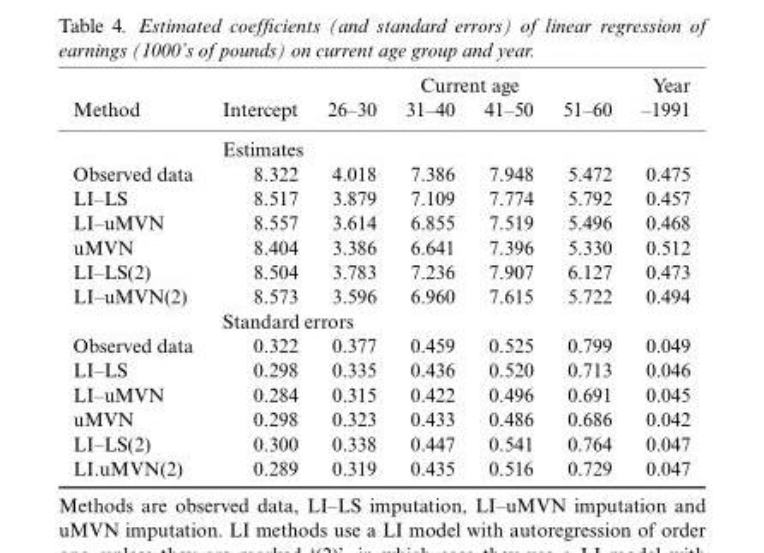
<table><thead><tr><td rowspan="2">Method</td><td rowspan="2">Intercept</td><td colspan="4">Current age</td><td rowspan="2">Year –1991</td></tr><tr><td>26–30</td><td>31–40</td><td>41–50</td><td>51–60</td></tr></thead><tbody><tr><td colspan="7">Estimates</td></tr><tr><td>Observed data</td><td>8.322</td><td>4.018</td><td>7.386</td><td>7.948</td><td>5.472</td><td>0.475</td></tr><tr><td>LI–LS</td><td>8.517</td><td>3.879</td><td>7.109</td><td>7.774</td><td>5.792</td><td>0.457</td></tr><tr><td>LI–uMVN</td><td>8.557</td><td>3.614</td><td>6.855</td><td>7.519</td><td>5.496</td><td>0.468</td></tr><tr><td>uMVN</td><td>8.404</td><td>3.386</td><td>6.641</td><td>7.396</td><td>5.330</td><td>0.512</td></tr><tr><td>LI–LS(2)</td><td>8.504</td><td>3.783</td><td>7.236</td><td>7.907</td><td>6.127</td><td>0.473</td></tr><tr><td>LI–uMVN(2)</td><td>8.573</td><td>3.596</td><td>6.960</td><td>7.615</td><td>5.722</td><td>0.494</td></tr><tr><td colspan="7">Standard errors</td></tr><tr><td>Observed data</td><td>0.322</td><td>0.377</td><td>0.459</td><td>0.525</td><td>0.799</td><td>0.049</td></tr><tr><td>LI–LS</td><td>0.298</td><td>0.335</td><td>0.436</td><td>0.520</td><td>0.713</td><td>0.046</td></tr><tr><td>LI–uMVN</td><td>0.284</td><td>0.315</td><td>0.422</td><td>0.496</td><td>0.691</td><td>0.045</td></tr><tr><td>uMVN</td><td>0.298</td><td>0.323</td><td>0.433</td><td>0.486</td><td>0.686</td><td>0.042</td></tr><tr><td>LI–LS(2)</td><td>0.300</td><td>0.338</td><td>0.447</td><td>0.541</td><td>0.764</td><td>0.047</td></tr><tr><td>LI.uMVN(2)</td><td>0.289</td><td>0.319</td><td>0.435</td><td>0.516</td><td>0.729</td><td>0.047</td></tr></tbody></table>